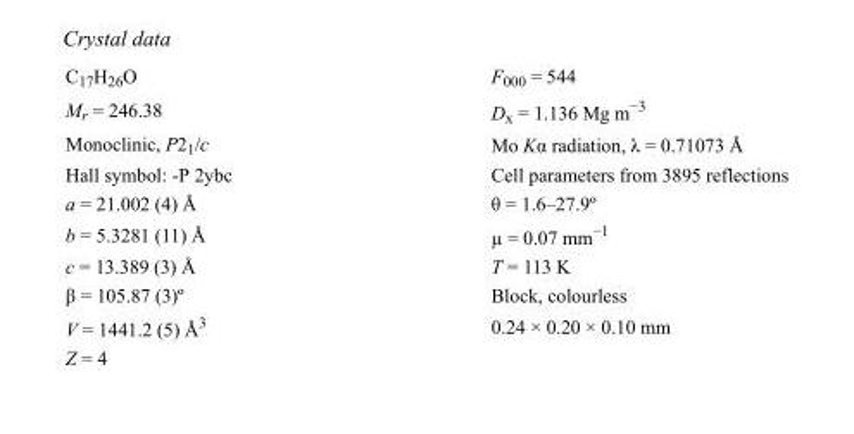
<table><tbody><tr><td>C<sub>17</sub>H<sub>26</sub>O</td><td>F000 = 544</td></tr><tr><td>M<sub>r</sub> = 246.38</td><td>D<sub>x</sub> = 1.136 Mg m<sup>−3</sup></td></tr><tr><td>Monoclinic, P2<sub>1</sub>/c</td><td>Mo Kα radiation, λ = 0.71073 Å</td></tr><tr><td>Hall symbol: -P 2ybc</td><td>Cell parameters from 3895 reflections</td></tr><tr><td>a = 21.002 (4) Å</td><td>θ = 1.6–27.9º</td></tr><tr><td>b = 5.3281 (11) Å</td><td>µ = 0.07 mm<sup>−1</sup></td></tr><tr><td>c = 13.389 (3) Å</td><td>T = 113 K</td></tr><tr><td>β = 105.87 (3)º</td><td>Block, colourless</td></tr><tr><td>V = 1441.2 (5) Å<sup>3</sup></td><td>0.24 × 0.20 × 0.10 mm</td></tr><tr><td>Z = 4</td><td></td></tr></tbody></table>